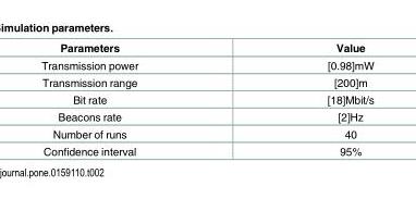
<table><thead><tr><td>Parameters</td><td>Value</td></tr></thead><tbody><tr><td>Transmission power</td><td>[0.98]mW</td></tr><tr><td>Transmission range</td><td>[200]m</td></tr><tr><td>Bit rate</td><td>[18]Mbit/s</td></tr><tr><td>Beacons rate</td><td>[2]Hz</td></tr><tr><td>Number of runs</td><td>40</td></tr><tr><td>Confidence interval</td><td>95%</td></tr></tbody></table>